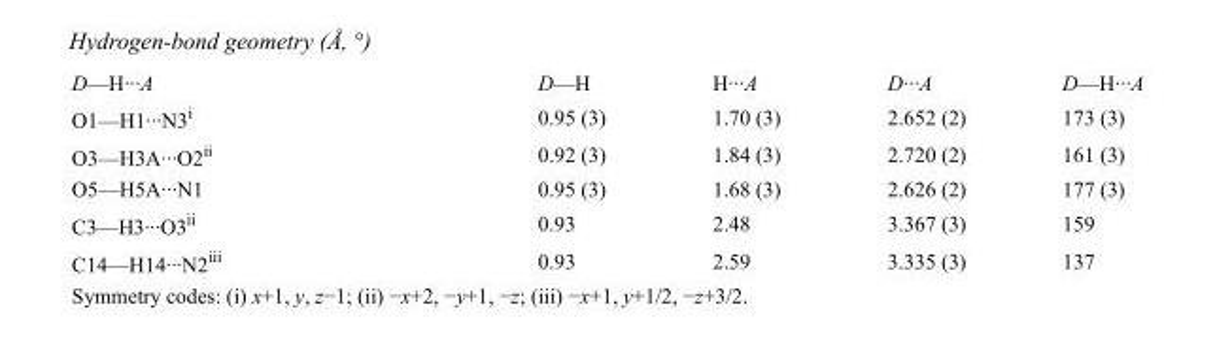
<table><tbody><tr><td>D—H···A</td><td>D—H</td><td>H···A</td><td>D···A</td><td>D—H···A</td></tr><tr><td>O1—H1···N3<sup>i</sup></td><td>0.95 (3)</td><td>1.70 (3)</td><td>2.652 (2)</td><td>173 (3)</td></tr><tr><td>O3—H3A···O2<sup>ii</sup></td><td>0.92 (3)</td><td>1.84 (3)</td><td>2.720 (2)</td><td>161 (3)</td></tr><tr><td>O5—H5A···N1</td><td>0.95 (3)</td><td>1.68 (3)</td><td>2.626 (2)</td><td>177 (3)</td></tr><tr><td>C3—H3···O3<sup>ii</sup></td><td>0.93</td><td>2.48</td><td>3.367 (3)</td><td>159</td></tr><tr><td>C14—H14···N2<sup>iii</sup></td><td>0.93</td><td>2.59</td><td>3.335 (3)</td><td>137</td></tr></tbody></table>